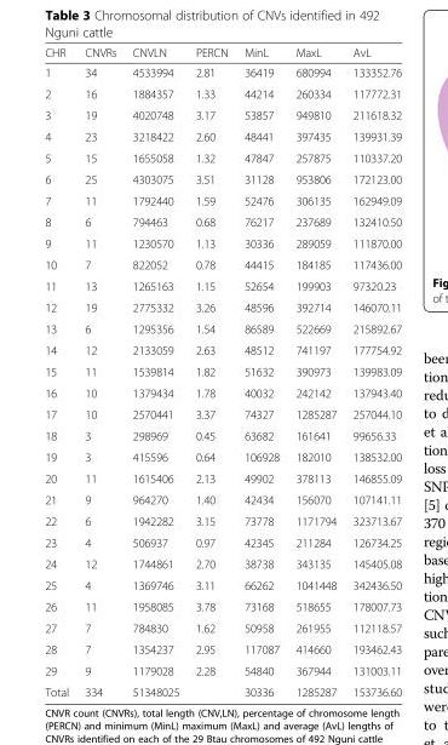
<table><thead><tr><td>CHR</td><td>CNVRs</td><td>CNVLN</td><td>PERCN</td><td>MinL</td><td>MaxL</td><td>AvL</td></tr></thead><tbody><tr><td>1</td><td>34</td><td>4533994</td><td>2.81</td><td>36419</td><td>680994</td><td>133352.76</td></tr><tr><td>2</td><td>16</td><td>1884357</td><td>1.33</td><td>44214</td><td>260334</td><td>117772.31</td></tr><tr><td>3</td><td>19</td><td>4020748</td><td>3.17</td><td>53857</td><td>949810</td><td>211618.32</td></tr><tr><td>4</td><td>23</td><td>3218422</td><td>2.60</td><td>48441</td><td>397435</td><td>139931.39</td></tr><tr><td>5</td><td>15</td><td>1655058</td><td>1.32</td><td>47847</td><td>257875</td><td>110337.20</td></tr><tr><td>6</td><td>25</td><td>4303075</td><td>3.51</td><td>31128</td><td>953806</td><td>172123.00</td></tr><tr><td>7</td><td>11</td><td>1792440</td><td>1.59</td><td>52476</td><td>306135</td><td>162949.09</td></tr><tr><td>8</td><td>6</td><td>794463</td><td>0.68</td><td>76217</td><td>237689</td><td>132410.50</td></tr><tr><td>9</td><td>11</td><td>1230570</td><td>1.13</td><td>30336</td><td>289059</td><td>111870.00</td></tr><tr><td>10</td><td>7</td><td>822052</td><td>0.78</td><td>44415</td><td>184185</td><td>117436.00</td></tr><tr><td>11</td><td>13</td><td>1265163</td><td>1.15</td><td>52654</td><td>199903</td><td>97320.23</td></tr><tr><td>12</td><td>19</td><td>2775332</td><td>3.26</td><td>48596</td><td>392714</td><td>146070.11</td></tr><tr><td>13</td><td>6</td><td>1295356</td><td>1.54</td><td>86589</td><td>522669</td><td>215892.67</td></tr><tr><td>14</td><td>12</td><td>2133059</td><td>2.63</td><td>48512</td><td>741197</td><td>177754.92</td></tr><tr><td>15</td><td>11</td><td>1539814</td><td>1.82</td><td>51632</td><td>390973</td><td>139983.09</td></tr><tr><td>16</td><td>10</td><td>1379434</td><td>1.78</td><td>40032</td><td>242142</td><td>137943.40</td></tr><tr><td>17</td><td>10</td><td>2570441</td><td>3.37</td><td>74327</td><td>1285287</td><td>257044.10</td></tr><tr><td>18</td><td>3</td><td>298969</td><td>0.45</td><td>63682</td><td>161641</td><td>99656.33</td></tr><tr><td>19</td><td>3</td><td>415596</td><td>0.64</td><td>106928</td><td>182010</td><td>138532.00</td></tr><tr><td>20</td><td>11</td><td>1615406</td><td>2.13</td><td>49902</td><td>378113</td><td>146855.09</td></tr><tr><td>21</td><td>9</td><td>964270</td><td>1.40</td><td>42434</td><td>156070</td><td>107141.11</td></tr><tr><td>22</td><td>6</td><td>1942282</td><td>3.15</td><td>73778</td><td>1171794</td><td>323713.67</td></tr><tr><td>23</td><td>4</td><td>506937</td><td>0.97</td><td>42345</td><td>211284</td><td>126734.25</td></tr><tr><td>24</td><td>12</td><td>1744861</td><td>2.70</td><td>38738</td><td>343135</td><td>145405.08</td></tr><tr><td>25</td><td>4</td><td>1369746</td><td>3.11</td><td>66262</td><td>1041448</td><td>342436.50</td></tr><tr><td>26</td><td>11</td><td>1958085</td><td>3.78</td><td>73168</td><td>518655</td><td>178007.73</td></tr><tr><td>27</td><td>7</td><td>784830</td><td>1.62</td><td>50958</td><td>261955</td><td>112118.57</td></tr><tr><td>28</td><td>7</td><td>1354237</td><td>2.95</td><td>117087</td><td>414660</td><td>193462.43</td></tr><tr><td>29</td><td>9</td><td>1179028</td><td>2.28</td><td>54840</td><td>367944</td><td>131003.11</td></tr><tr><td>Total</td><td>334</td><td>51348025</td><td></td><td>30336</td><td>1285287</td><td>153736.60</td></tr></tbody></table>